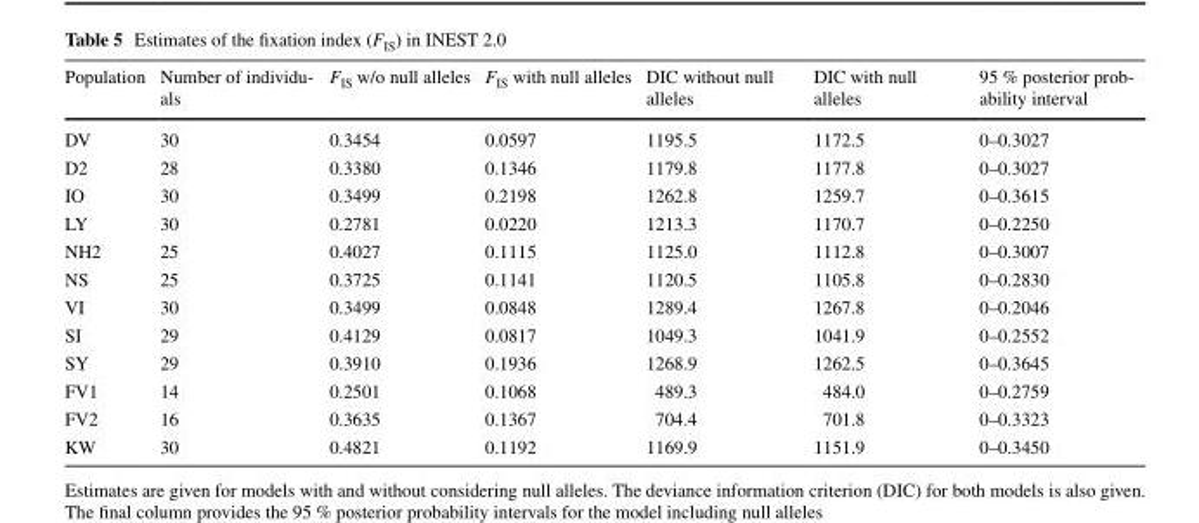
<table><thead><tr><td>Population</td><td>Number of individu- als</td><td>F<sub>IS</sub> w/o null alleles</td><td>F<sub>IS</sub> with null alleles</td><td>DIC without null alleles</td><td>DIC with null alleles</td><td>95 % posterior prob- ability interval</td></tr></thead><tbody><tr><td>DV</td><td>30</td><td>0.3454</td><td>0.0597</td><td>1195.5</td><td>1172.5</td><td>0–0.3027</td></tr><tr><td>D2</td><td>28</td><td>0.3380</td><td>0.1346</td><td>1179.8</td><td>1177.8</td><td>0–0.3027</td></tr><tr><td>IO</td><td>30</td><td>0.3499</td><td>0.2198</td><td>1262.8</td><td>1259.7</td><td>0–0.3615</td></tr><tr><td>LY</td><td>30</td><td>0.2781</td><td>0.0220</td><td>1213.3</td><td>1170.7</td><td>0–0.2250</td></tr><tr><td>NH2</td><td>25</td><td>0.4027</td><td>0.1115</td><td>1125.0</td><td>1112.8</td><td>0–0.3007</td></tr><tr><td>NS</td><td>25</td><td>0.3725</td><td>0.1141</td><td>1120.5</td><td>1105.8</td><td>0–0.2830</td></tr><tr><td>VI</td><td>30</td><td>0.3499</td><td>0.0848</td><td>1289.4</td><td>1267.8</td><td>0–0.2046</td></tr><tr><td>SI</td><td>29</td><td>0.4129</td><td>0.0817</td><td>1049.3</td><td>1041.9</td><td>0–0.2552</td></tr><tr><td>SY</td><td>29</td><td>0.3910</td><td>0.1936</td><td>1268.9</td><td>1262.5</td><td>0–0.3645</td></tr><tr><td>FV1</td><td>14</td><td>0.2501</td><td>0.1068</td><td>489.3</td><td>484.0</td><td>0–0.2759</td></tr><tr><td>FV2</td><td>16</td><td>0.3635</td><td>0.1367</td><td>704.4</td><td>701.8</td><td>0–0.3323</td></tr><tr><td>KW</td><td>30</td><td>0.4821</td><td>0.1192</td><td>1169.9</td><td>1151.9</td><td>0–0.3450</td></tr></tbody></table>